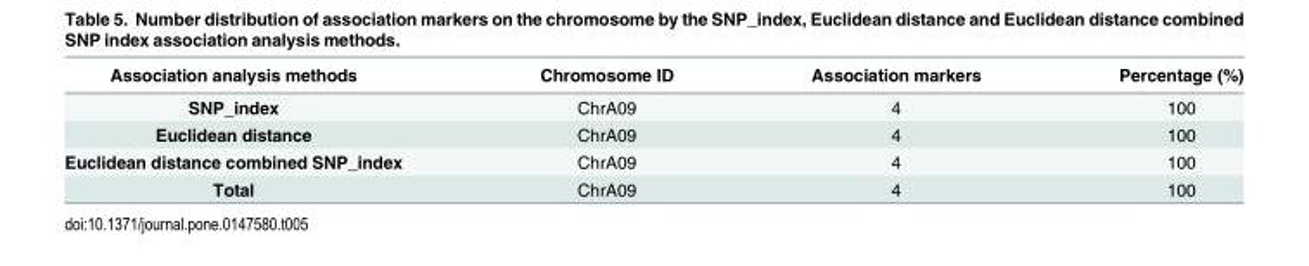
<table><thead><tr><td>Association analysis methods</td><td>Chromosome ID</td><td>Association markers</td><td>Percentage (%)</td></tr></thead><tbody><tr><td>SNP_index</td><td>ChrA09</td><td>4</td><td>100</td></tr><tr><td>Euclidean distance</td><td>ChrA09</td><td>4</td><td>100</td></tr><tr><td>Euclidean distance combined SNP_index</td><td>ChrA09</td><td>4</td><td>100</td></tr><tr><td>Total</td><td>ChrA09</td><td>4</td><td>100</td></tr></tbody></table>